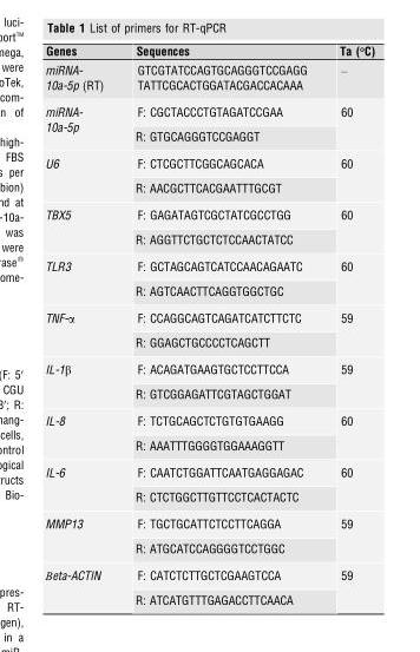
<table><thead><tr><td>Genes</td><td>Sequences</td><td>Ta (°C)</td></tr></thead><tbody><tr><td>miRNA- 10a-5p (RT)</td><td>GTCGTATCCAGTGCAGGGTCCGAGG TATTCGCACTGGATACGACCACAAA</td><td>–</td></tr><tr><td rowspan="2">miRNA- 10a-5p</td><td>F: CGCTACCCTGTAGATCCGAA</td><td rowspan="2">60</td></tr><tr><td>R: GTGCAGGGTCCGAGGT</td></tr><tr><td rowspan="2">U6</td><td>F: CTCGCTTCGGCAGCACA</td><td rowspan="2">60</td></tr><tr><td>R: AACGCTTCACGAATTTGCGT</td></tr><tr><td rowspan="2">TBX5</td><td>F: GAGATAGTCGCTATCGCCTGG</td><td rowspan="2">60</td></tr><tr><td>R: AGGTTCTGCTCTCCAACTATCC</td></tr><tr><td rowspan="2">TLR3</td><td>F: GCTAGCAGTCATCCAACAGAATC</td><td rowspan="2">60</td></tr><tr><td>R: AGTCAACTTCAGGTGGCTGC</td></tr><tr><td rowspan="2">TNF-α</td><td>F: CCAGGCAGTCAGATCATCTTCTC</td><td rowspan="2">59</td></tr><tr><td>R: GGAGCTGCCCCTCAGCTT</td></tr><tr><td rowspan="2">IL-1β</td><td>F: ACAGATGAAGTGCTCCTTCCA</td><td rowspan="2">59</td></tr><tr><td>R: GTCGGAGATTCGTAGCTGGAT</td></tr><tr><td rowspan="2">IL-8</td><td>F: TCTGCAGCTCTGTGTGAAGG</td><td rowspan="2">60</td></tr><tr><td>R: AAATTTGGGGTGGAAAGGTT</td></tr><tr><td rowspan="2">IL-6</td><td>F: CAATCTGGATTCAATGAGGAGAC</td><td rowspan="2">60</td></tr><tr><td>R: CTCTGGCTTGTTCCTCACTACTC</td></tr><tr><td rowspan="2">MMP13</td><td>F: TGCTGCATTCTCCTTCAGGA</td><td rowspan="2">59</td></tr><tr><td>R: ATGCATCCAGGGGTCCTGGC</td></tr><tr><td rowspan="2">Βeta-ACTIN</td><td>F: CATCTCTTGCTCGAAGTCCA</td><td rowspan="2">59</td></tr><tr><td>R: ATCATGTTTGAGACCTTCAACA</td></tr></tbody></table>